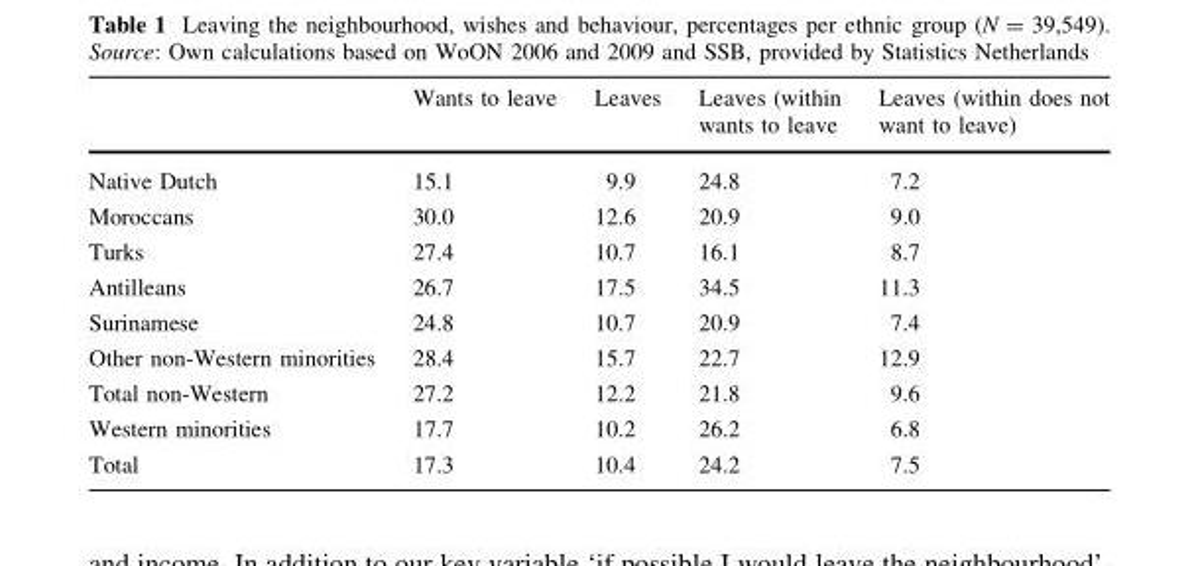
<table><thead><tr><td></td><td>Wants to leave</td><td>Leaves</td><td>Leaves (within wants to leave</td><td>Leaves (within does not want to leave)</td></tr></thead><tbody><tr><td>Native Dutch</td><td>15.1</td><td>9.9</td><td>24.8</td><td>7.2</td></tr><tr><td>Moroccans</td><td>30.0</td><td>12.6</td><td>20.9</td><td>9.0</td></tr><tr><td>Turks</td><td>27.4</td><td>10.7</td><td>16.1</td><td>8.7</td></tr><tr><td>Antilleans</td><td>26.7</td><td>17.5</td><td>34.5</td><td>11.3</td></tr><tr><td>Surinamese</td><td>24.8</td><td>10.7</td><td>20.9</td><td>7.4</td></tr><tr><td>Other non-Western minorities</td><td>28.4</td><td>15.7</td><td>22.7</td><td>12.9</td></tr><tr><td>Total non-Western</td><td>27.2</td><td>12.2</td><td>21.8</td><td>9.6</td></tr><tr><td>Western minorities</td><td>17.7</td><td>10.2</td><td>26.2</td><td>6.8</td></tr><tr><td>Total</td><td>17.3</td><td>10.4</td><td>24.2</td><td>7.5</td></tr></tbody></table>